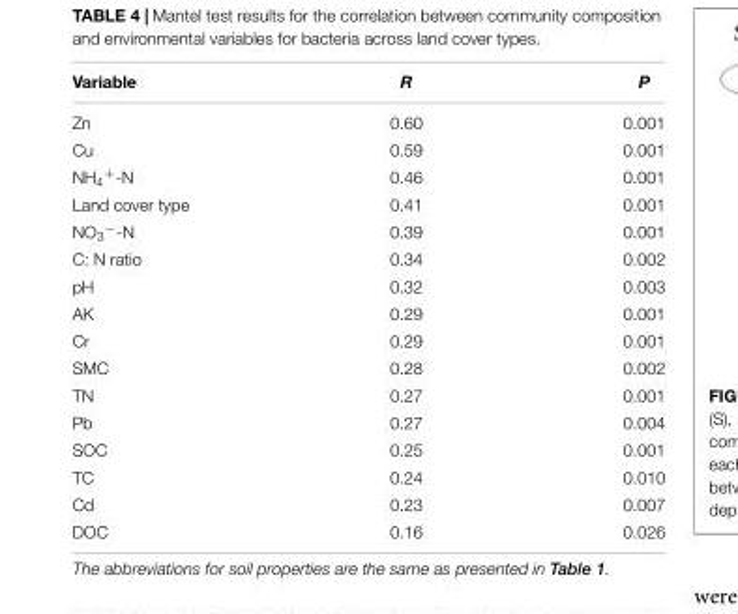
<table><thead><tr><td>Variable</td><td>R</td><td>P</td></tr></thead><tbody><tr><td>Zn</td><td>0.60</td><td>0.001</td></tr><tr><td>Cu</td><td>0.59</td><td>0.001</td></tr><tr><td>NH<sub>4</sub><sup>+</sup>-N</td><td>0.46</td><td>0.001</td></tr><tr><td>Land cover type</td><td>0.41</td><td>0.001</td></tr><tr><td>NO<sub>3</sub><sup>−</sup>-N</td><td>0.39</td><td>0.001</td></tr><tr><td>C: N ratio</td><td>0.34</td><td>0.002</td></tr><tr><td>pH</td><td>0.32</td><td>0.003</td></tr><tr><td>AK</td><td>0.29</td><td>0.001</td></tr><tr><td>Cr</td><td>0.29</td><td>0.001</td></tr><tr><td>SMC</td><td>0.28</td><td>0.002</td></tr><tr><td>TN</td><td>0.27</td><td>0.001</td></tr><tr><td>Pb</td><td>0.27</td><td>0.004</td></tr><tr><td>SOC</td><td>0.25</td><td>0.001</td></tr><tr><td>TC</td><td>0.24</td><td>0.010</td></tr><tr><td>Cd</td><td>0.23</td><td>0.007</td></tr><tr><td>DOC</td><td>0.16</td><td>0.026</td></tr></tbody></table>